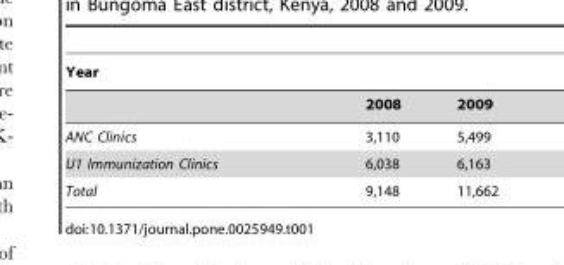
<table><thead><tr><td colspan="3">Year</td></tr><tr><td></td><td>2008</td><td>2009</td></tr></thead><tbody><tr><td>ANC Clinics</td><td>3,110</td><td>5,499</td></tr><tr><td>U1 Immunization Clinics</td><td>6,038</td><td>6,163</td></tr><tr><td>Total</td><td>9,148</td><td>11,662</td></tr></tbody></table>